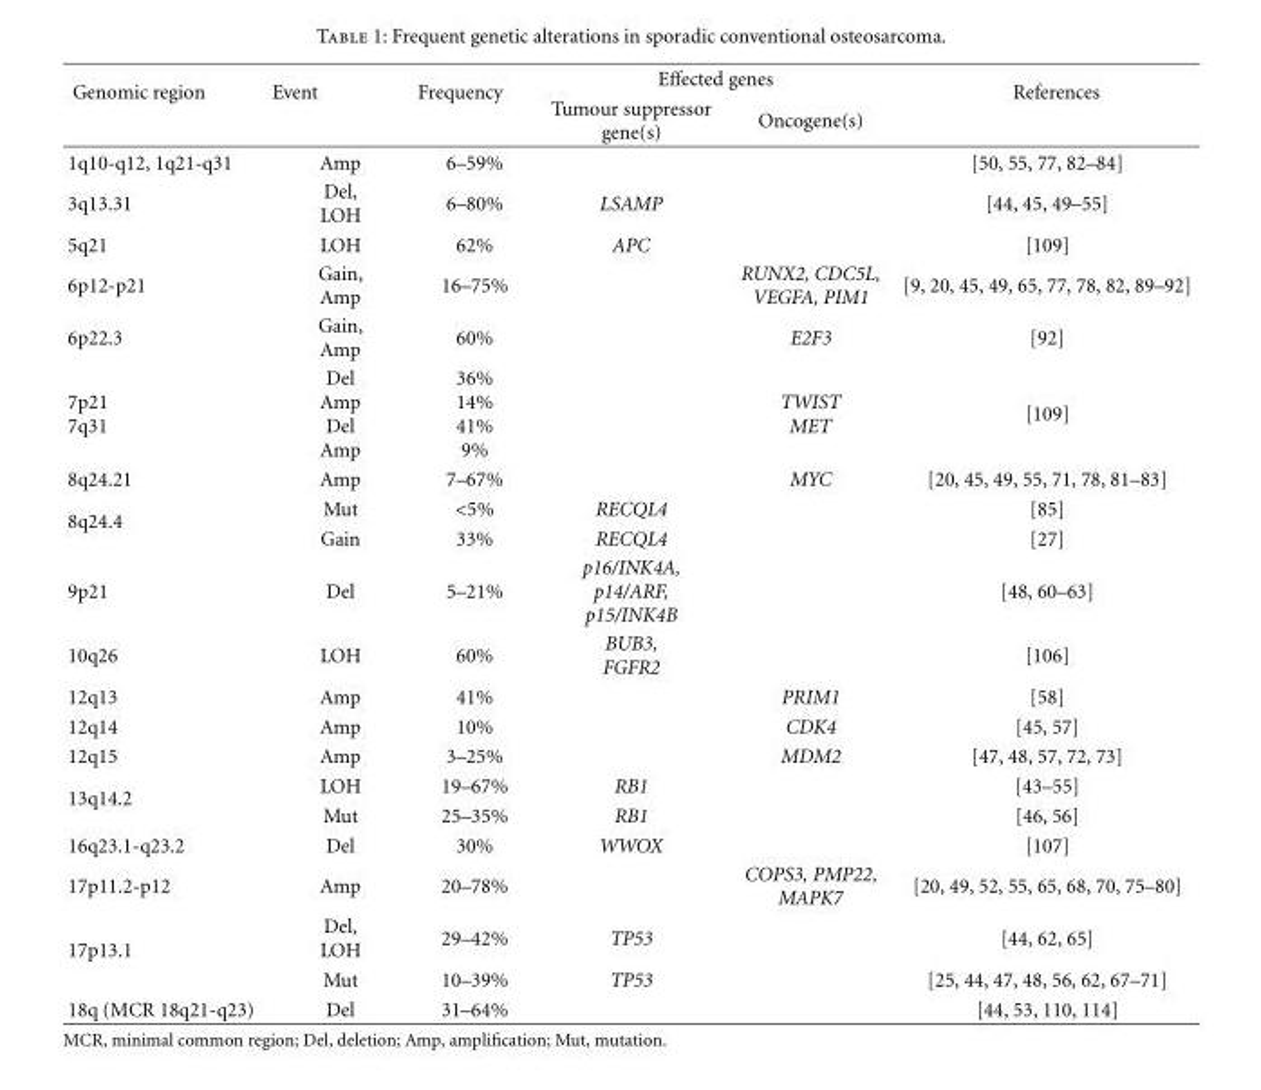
<table><thead><tr><td rowspan="2">Genomic region</td><td rowspan="2">Event</td><td rowspan="2">Frequency</td><td colspan="2">Effected genes</td><td rowspan="2">References</td></tr><tr><td>Tumour suppressor gene(s)</td><td>Oncogene(s)</td></tr></thead><tbody><tr><td>1q10-q12, 1q21-q31</td><td>Amp</td><td>6–59%</td><td></td><td></td><td>[50, 55, 77, 82–84]</td></tr><tr><td>3q13.31</td><td>Del, LOH</td><td>6–80%</td><td>LSAMP</td><td></td><td>[44, 45, 49–55]</td></tr><tr><td>5q21</td><td>LOH</td><td>62%</td><td>APC</td><td></td><td>[109]</td></tr><tr><td>6p12-p21</td><td>Gain, Amp</td><td>16–75%</td><td></td><td>RUNX2, CDC5L, VEGFA, PIM1</td><td>[9, 20, 45, 49, 65, 77, 78, 82, 89–92]</td></tr><tr><td>6p22.3</td><td>Gain, Amp</td><td>60%</td><td></td><td>E2F3</td><td>[92]</td></tr><tr><td>7p21 7q31</td><td>Del Amp Del Amp</td><td>36% 14% 41% 9%</td><td></td><td>TWIST MET</td><td>[109]</td></tr><tr><td>8q24.21</td><td>Amp</td><td>7–67%</td><td></td><td>MYC</td><td>[20, 45, 49, 55, 71, 78, 81–83]</td></tr><tr><td rowspan="2">8q24.4</td><td>Mut</td><td>&lt;5%</td><td>RECQL4</td><td></td><td>[85]</td></tr><tr><td>Gain</td><td>33%</td><td>RECQL4</td><td></td><td>[27]</td></tr><tr><td>9p21</td><td>Del</td><td>5–21%</td><td>p16/INK4A, p14/ARF, p15/INK4B</td><td></td><td>[48, 60–63]</td></tr><tr><td>10q26</td><td>LOH</td><td>60%</td><td>BUB3, FGFR2</td><td></td><td>[106]</td></tr><tr><td>12q13</td><td>Amp</td><td>41%</td><td></td><td>PRIM1</td><td>[58]</td></tr><tr><td>12q14</td><td>Amp</td><td>10%</td><td></td><td>CDK4</td><td>[45, 57]</td></tr><tr><td>12q15</td><td>Amp</td><td>3–25%</td><td></td><td>MDM2</td><td>[47, 48, 57, 72, 73]</td></tr><tr><td rowspan="2">13q14.2</td><td>LOH</td><td>19–67%</td><td>RB1</td><td></td><td>[43–55]</td></tr><tr><td>Mut</td><td>25–35%</td><td>RB1</td><td></td><td>[46, 56]</td></tr><tr><td>16q23.1-q23.2</td><td>Del</td><td>30%</td><td>WWOX</td><td></td><td>[107]</td></tr><tr><td>17p11.2-p12</td><td>Amp</td><td>20–78%</td><td></td><td>COPS3, PMP22, MAPK7</td><td>[20, 49, 52, 55, 65, 68, 70, 75–80]</td></tr><tr><td rowspan="2">17p13.1</td><td>Del, LOH</td><td>29–42%</td><td>TP53</td><td></td><td>[44, 62, 65]</td></tr><tr><td>Mut</td><td>10–39%</td><td>TP53</td><td></td><td>[25, 44, 47, 48, 56, 62, 67–71]</td></tr><tr><td>18q (MCR 18q21-q23)</td><td>Del</td><td>31–64%</td><td></td><td></td><td>[44, 53, 110, 114]</td></tr></tbody></table>